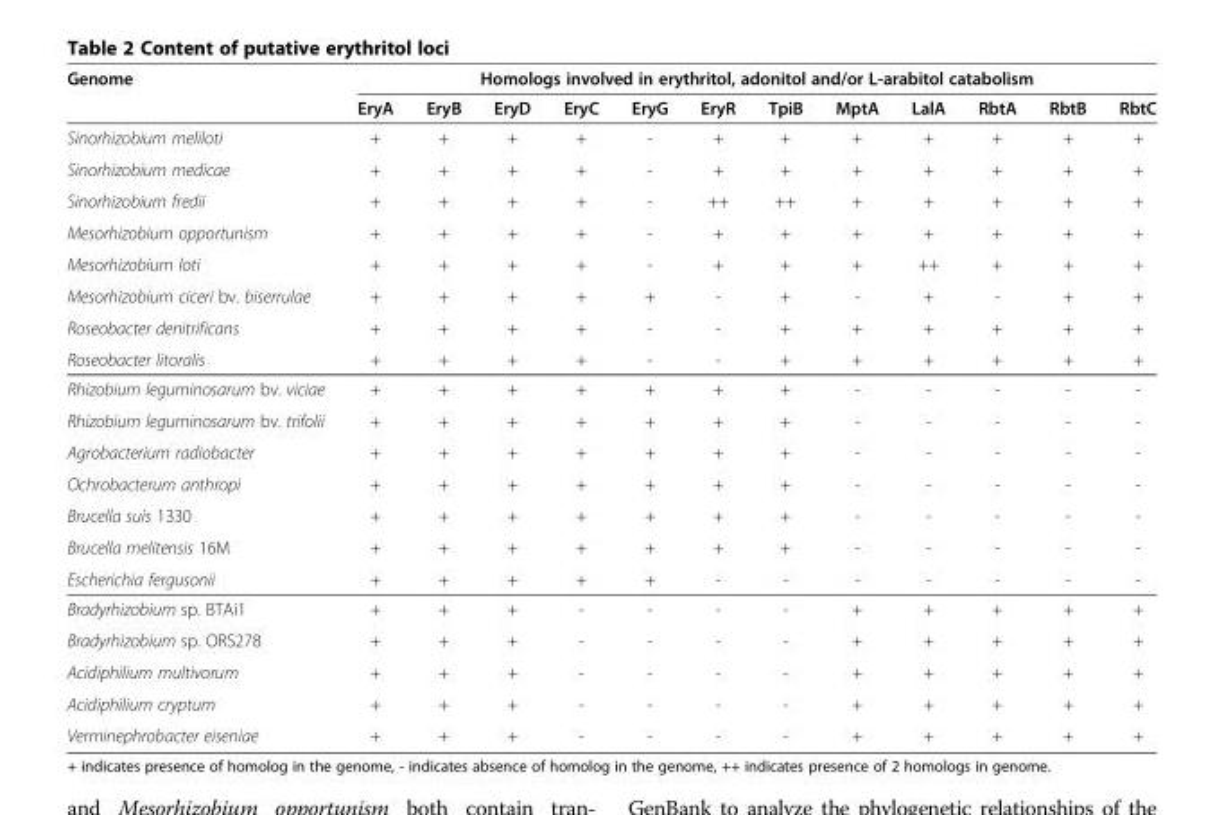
<table><thead><tr><td rowspan="2">Genome</td><td colspan="12">Homologs involved in erythritol, adonitol and/or L-arabitol catabolism</td></tr><tr><td>EryA</td><td>EryB</td><td>EryD</td><td>EryC</td><td>EryG</td><td>EryR</td><td>TpiB</td><td>MptA</td><td>LalA</td><td>RbtA</td><td>RbtB</td><td>RbtC</td></tr></thead><tbody><tr><td>Sinorhizobium meliloti</td><td>+</td><td>+</td><td>+</td><td>+</td><td>-</td><td>+</td><td>+</td><td>+</td><td>+</td><td>+</td><td>+</td><td>+</td></tr><tr><td>Sinorhizobium medicae</td><td>+</td><td>+</td><td>+</td><td>+</td><td>-</td><td>+</td><td>+</td><td>+</td><td>+</td><td>+</td><td>+</td><td>+</td></tr><tr><td>Sinorhizobium fredii</td><td>+</td><td>+</td><td>+</td><td>+</td><td>-</td><td>++</td><td>++</td><td>+</td><td>+</td><td>+</td><td>+</td><td>+</td></tr><tr><td>Mesorhizobium opportunism</td><td>+</td><td>+</td><td>+</td><td>+</td><td>-</td><td>+</td><td>+</td><td>+</td><td>+</td><td>+</td><td>+</td><td>+</td></tr><tr><td>Mesorhizobium loti</td><td>+</td><td>+</td><td>+</td><td>+</td><td>-</td><td>+</td><td>+</td><td>+</td><td>++</td><td>+</td><td>+</td><td>+</td></tr><tr><td>Mesorhizobium ciceri bv. biserrulae</td><td>+</td><td>+</td><td>+</td><td>+</td><td>+</td><td>-</td><td>+</td><td>-</td><td>+</td><td>-</td><td>+</td><td>+</td></tr><tr><td>Roseobacter denitrificans</td><td>+</td><td>+</td><td>+</td><td>+</td><td>-</td><td>-</td><td>+</td><td>+</td><td>+</td><td>+</td><td>+</td><td>+</td></tr><tr><td>Roseobacter litoralis</td><td>+</td><td>+</td><td>+</td><td>+</td><td>-</td><td>-</td><td>+</td><td>+</td><td>+</td><td>+</td><td>+</td><td>+</td></tr><tr><td>Rhizobium leguminosarum bv. viciae</td><td>+</td><td>+</td><td>+</td><td>+</td><td>+</td><td>+</td><td>+</td><td>-</td><td>-</td><td>-</td><td>-</td><td>-</td></tr><tr><td>Rhizobium leguminosarum bv. trifolii</td><td>+</td><td>+</td><td>+</td><td>+</td><td>+</td><td>+</td><td>+</td><td>-</td><td>-</td><td>-</td><td>-</td><td>-</td></tr><tr><td>Agrobacterium radiobacter</td><td>+</td><td>+</td><td>+</td><td>+</td><td>+</td><td>+</td><td>+</td><td>-</td><td>-</td><td>-</td><td>-</td><td>-</td></tr><tr><td>Ochrobacterum anthropi</td><td>+</td><td>+</td><td>+</td><td>+</td><td>+</td><td>+</td><td>+</td><td>-</td><td>-</td><td>-</td><td>-</td><td>-</td></tr><tr><td>Brucella suis 1330</td><td>+</td><td>+</td><td>+</td><td>+</td><td>+</td><td>+</td><td>+</td><td>-</td><td>-</td><td>-</td><td>-</td><td>-</td></tr><tr><td>Brucella melitensis 16M</td><td>+</td><td>+</td><td>+</td><td>+</td><td>+</td><td>+</td><td>+</td><td>-</td><td>-</td><td>-</td><td>-</td><td>-</td></tr><tr><td>Escherichia fergusonii</td><td>+</td><td>+</td><td>+</td><td>+</td><td>+</td><td>-</td><td>-</td><td>-</td><td>-</td><td>-</td><td>-</td><td>-</td></tr><tr><td>Bradyrhizobium sp. BTAi1</td><td>+</td><td>+</td><td>+</td><td>-</td><td>-</td><td>-</td><td>-</td><td>+</td><td>+</td><td>+</td><td>+</td><td>+</td></tr><tr><td>Bradyrhizobium sp. ORS278</td><td>+</td><td>+</td><td>+</td><td>-</td><td>-</td><td>-</td><td>-</td><td>+</td><td>+</td><td>+</td><td>+</td><td>+</td></tr><tr><td>Acidiphilium multivorum</td><td>+</td><td>+</td><td>+</td><td>-</td><td>-</td><td>-</td><td>-</td><td>+</td><td>+</td><td>+</td><td>+</td><td>+</td></tr><tr><td>Acidiphilium cryptum</td><td>+</td><td>+</td><td>+</td><td>-</td><td>-</td><td>-</td><td>-</td><td>+</td><td>+</td><td>+</td><td>+</td><td>+</td></tr><tr><td>Verminephrobacter eiseniae</td><td>+</td><td>+</td><td>+</td><td>-</td><td>-</td><td>-</td><td>-</td><td>+</td><td>+</td><td>+</td><td>+</td><td>+</td></tr></tbody></table>